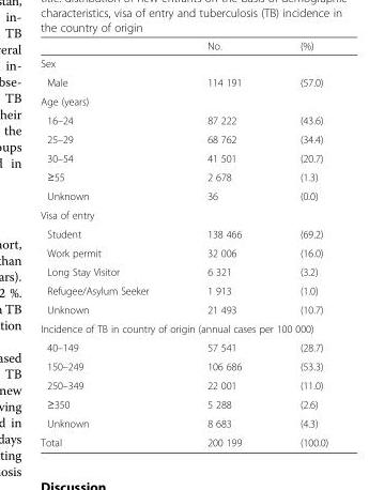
<table><thead><tr><td></td><td>No.</td><td>(%)</td></tr></thead><tbody><tr><td colspan="3">Sex</td></tr><tr><td>Male</td><td>114 191</td><td>(57.0)</td></tr><tr><td colspan="3">Age (years)</td></tr><tr><td>16–24</td><td>87 222</td><td>(43.6)</td></tr><tr><td>25–29</td><td>68 762</td><td>(34.4)</td></tr><tr><td>30–54</td><td>41 501</td><td>(20.7)</td></tr><tr><td>≥55</td><td>2 678</td><td>(1.3)</td></tr><tr><td>Unknown</td><td>36</td><td>(0.0)</td></tr><tr><td colspan="3">Visa of entry</td></tr><tr><td>Student</td><td>138 466</td><td>(69.2)</td></tr><tr><td>Work permit</td><td>32 006</td><td>(16.0)</td></tr><tr><td>Long Stay Visitor</td><td>6 321</td><td>(3.2)</td></tr><tr><td>Refugee/Asylum Seeker</td><td>1 913</td><td>(1.0)</td></tr><tr><td>Unknown</td><td>21 493</td><td>(10.7)</td></tr><tr><td colspan="3">Incidence of TB in country of origin (annual cases per 100 000)</td></tr><tr><td>40–149</td><td>57 541</td><td>(28.7)</td></tr><tr><td>150–249</td><td>106 686</td><td>(53.3)</td></tr><tr><td>250–349</td><td>22 001</td><td>(11.0)</td></tr><tr><td>≥350</td><td>5 288</td><td>(2.6)</td></tr><tr><td>Unknown</td><td>8 683</td><td>(4.3)</td></tr><tr><td>Total</td><td>200 199</td><td>(100.0)</td></tr></tbody></table>